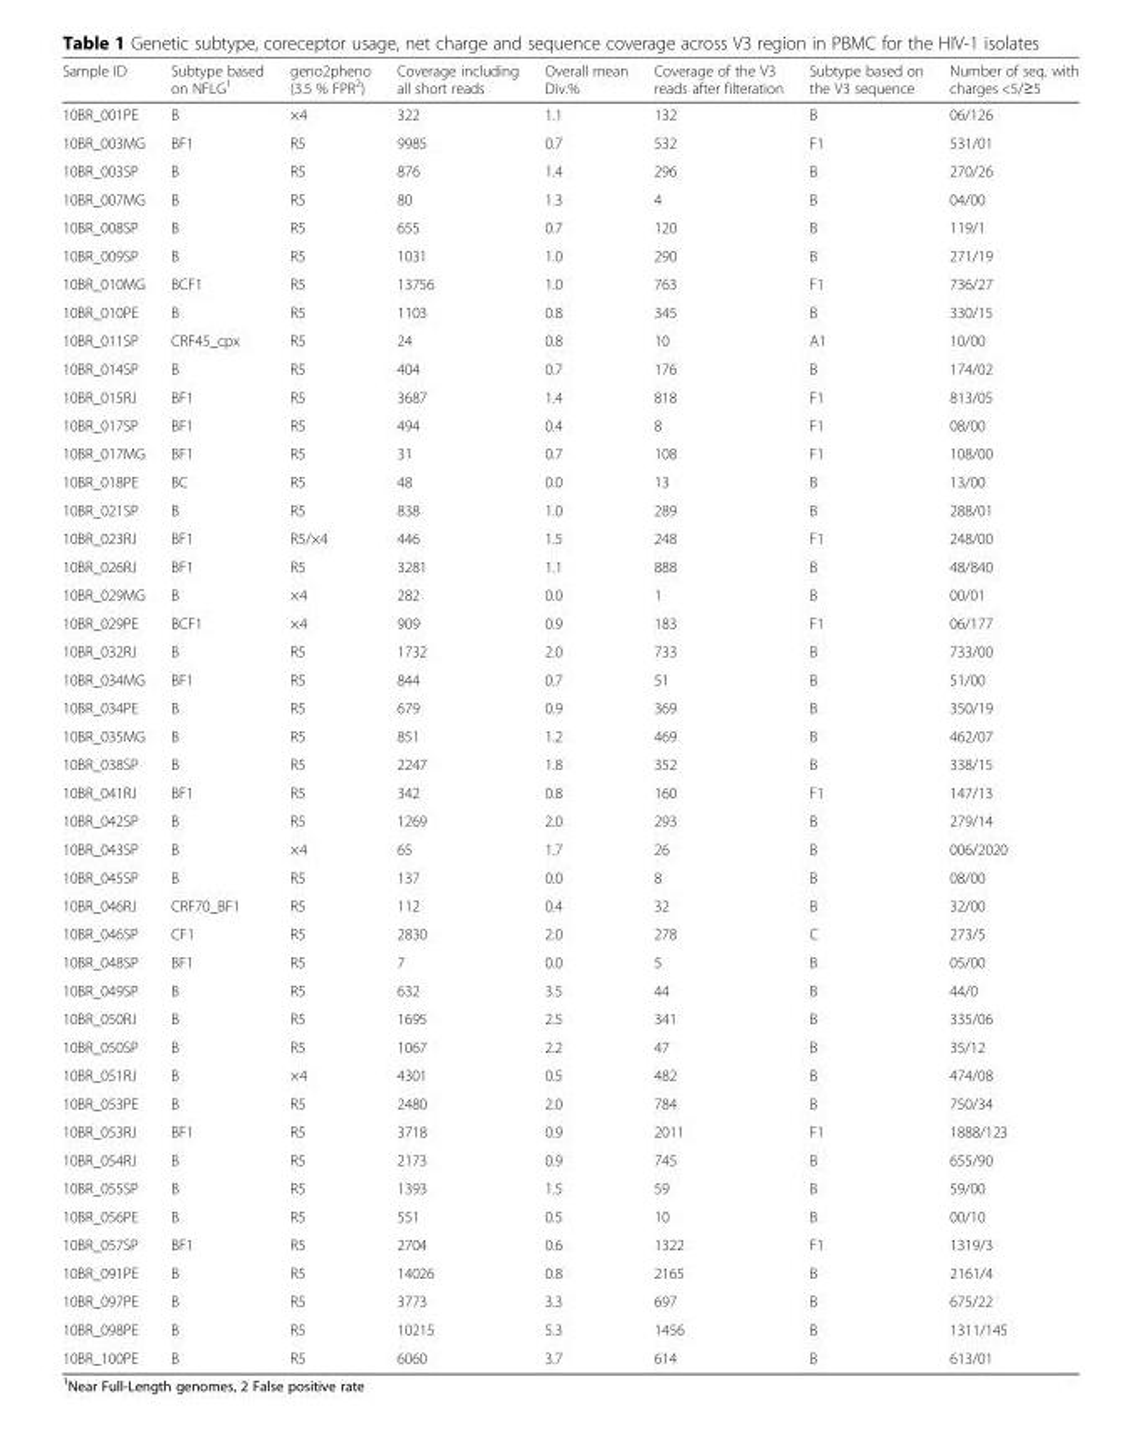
<table><thead><tr><td>Sample ID</td><td>Subtype based on NFLG<sup>1</sup></td><td>geno2pheno (3.5 % FPR<sup>2</sup>)</td><td>Coverage including all short reads</td><td>Overall mean Div.%</td><td>Coverage of the V3 reads after filteration</td><td>Subtype based on the V3 sequence</td><td>Number of seq. with charges &lt;5/≥5</td></tr></thead><tbody><tr><td>10BR_001PE</td><td>B</td><td>×4</td><td>322</td><td>1.1</td><td>132</td><td>B</td><td>06/126</td></tr><tr><td>10BR_003MG</td><td>BF1</td><td>R5</td><td>9985</td><td>0.7</td><td>532</td><td>F1</td><td>531/01</td></tr><tr><td>10BR_003SP</td><td>B</td><td>R5</td><td>876</td><td>1.4</td><td>296</td><td>B</td><td>270/26</td></tr><tr><td>10BR_007MG</td><td>B</td><td>R5</td><td>80</td><td>1.3</td><td>4</td><td>B</td><td>04/00</td></tr><tr><td>10BR_008SP</td><td>B</td><td>R5</td><td>655</td><td>0.7</td><td>120</td><td>B</td><td>119/1</td></tr><tr><td>10BR_009SP</td><td>B</td><td>R5</td><td>1031</td><td>1.0</td><td>290</td><td>B</td><td>271/19</td></tr><tr><td>10BR_010MG</td><td>BCF1</td><td>R5</td><td>13756</td><td>1.0</td><td>763</td><td>F1</td><td>736/27</td></tr><tr><td>10BR_010PE</td><td>B</td><td>R5</td><td>1103</td><td>0.8</td><td>345</td><td>B</td><td>330/15</td></tr><tr><td>10BR_011SP</td><td>CRF45_cpx</td><td>R5</td><td>24</td><td>0.8</td><td>10</td><td>A1</td><td>10/00</td></tr><tr><td>10BR_014SP</td><td>B</td><td>R5</td><td>404</td><td>0.7</td><td>176</td><td>B</td><td>174/02</td></tr><tr><td>10BR_015RJ</td><td>BF1</td><td>R5</td><td>3687</td><td>1.4</td><td>818</td><td>F1</td><td>813/05</td></tr><tr><td>10BR_017SP</td><td>BF1</td><td>R5</td><td>494</td><td>0.4</td><td>8</td><td>F1</td><td>08/00</td></tr><tr><td>10BR_017MG</td><td>BF1</td><td>R5</td><td>31</td><td>0.7</td><td>108</td><td>F1</td><td>108/00</td></tr><tr><td>10BR_018PE</td><td>BC</td><td>R5</td><td>48</td><td>0.0</td><td>13</td><td>B</td><td>13/00</td></tr><tr><td>10BR_021SP</td><td>B</td><td>R5</td><td>838</td><td>1.0</td><td>289</td><td>B</td><td>288/01</td></tr><tr><td>10BR_023RJ</td><td>BF1</td><td>R5/×4</td><td>446</td><td>1.5</td><td>248</td><td>F1</td><td>248/00</td></tr><tr><td>10BR_026RJ</td><td>BF1</td><td>R5</td><td>3281</td><td>1.1</td><td>888</td><td>B</td><td>48/840</td></tr><tr><td>10BR_029MG</td><td>B</td><td>×4</td><td>282</td><td>0.0</td><td>1</td><td>B</td><td>00/01</td></tr><tr><td>10BR_029PE</td><td>BCF1</td><td>×4</td><td>909</td><td>0.9</td><td>183</td><td>F1</td><td>06/177</td></tr><tr><td>10BR_032RJ</td><td>B</td><td>R5</td><td>1732</td><td>2.0</td><td>733</td><td>B</td><td>733/00</td></tr><tr><td>10BR_034MG</td><td>BF1</td><td>R5</td><td>844</td><td>0.7</td><td>51</td><td>B</td><td>51/00</td></tr><tr><td>10BR_034PE</td><td>B</td><td>R5</td><td>679</td><td>0.9</td><td>369</td><td>B</td><td>350/19</td></tr><tr><td>10BR_035MG</td><td>B</td><td>R5</td><td>851</td><td>1.2</td><td>469</td><td>B</td><td>462/07</td></tr><tr><td>10BR_038SP</td><td>B</td><td>R5</td><td>2247</td><td>1.8</td><td>352</td><td>B</td><td>338/15</td></tr><tr><td>10BR_041RJ</td><td>BF1</td><td>R5</td><td>342</td><td>0.8</td><td>160</td><td>F1</td><td>147/13</td></tr><tr><td>10BR_042SP</td><td>B</td><td>R5</td><td>1269</td><td>2.0</td><td>293</td><td>B</td><td>279/14</td></tr><tr><td>10BR_043SP</td><td>B</td><td>×4</td><td>65</td><td>1.7</td><td>26</td><td>B</td><td>006/2020</td></tr><tr><td>10BR_045SP</td><td>B</td><td>R5</td><td>137</td><td>0.0</td><td>8</td><td>B</td><td>08/00</td></tr><tr><td>10BR_046RJ</td><td>CRF70_BF1</td><td>R5</td><td>112</td><td>0.4</td><td>32</td><td>B</td><td>32/00</td></tr><tr><td>10BR_046SP</td><td>CF1</td><td>R5</td><td>2830</td><td>2.0</td><td>278</td><td>C</td><td>273/5</td></tr><tr><td>10BR_048SP</td><td>BF1</td><td>R5</td><td>7</td><td>0.0</td><td>5</td><td>B</td><td>05/00</td></tr><tr><td>10BR_049SP</td><td>B</td><td>R5</td><td>632</td><td>3.5</td><td>44</td><td>B</td><td>44/0</td></tr><tr><td>10BR_050RJ</td><td>B</td><td>R5</td><td>1695</td><td>2.5</td><td>341</td><td>B</td><td>335/06</td></tr><tr><td>10BR_050SP</td><td>B</td><td>R5</td><td>1067</td><td>2.2</td><td>47</td><td>B</td><td>35/12</td></tr><tr><td>10BR_051RJ</td><td>B</td><td>×4</td><td>4301</td><td>0.5</td><td>482</td><td>B</td><td>474/08</td></tr><tr><td>10BR_053PE</td><td>B</td><td>R5</td><td>2480</td><td>2.0</td><td>784</td><td>B</td><td>750/34</td></tr><tr><td>10BR_053RJ</td><td>BF1</td><td>R5</td><td>3718</td><td>0.9</td><td>2011</td><td>F1</td><td>1888/123</td></tr><tr><td>10BR_054RJ</td><td>B</td><td>R5</td><td>2173</td><td>0.9</td><td>745</td><td>B</td><td>655/90</td></tr><tr><td>10BR_055SP</td><td>B</td><td>R5</td><td>1393</td><td>1.5</td><td>59</td><td>B</td><td>59/00</td></tr><tr><td>10BR_056PE</td><td>B</td><td>R5</td><td>551</td><td>0.5</td><td>10</td><td>B</td><td>00/10</td></tr><tr><td>10BR_057SP</td><td>BF1</td><td>R5</td><td>2704</td><td>0.6</td><td>1322</td><td>F1</td><td>1319/3</td></tr><tr><td>10BR_091PE</td><td>B</td><td>R5</td><td>14026</td><td>0.8</td><td>2165</td><td>B</td><td>2161/4</td></tr><tr><td>10BR_097PE</td><td>B</td><td>R5</td><td>3773</td><td>3.3</td><td>697</td><td>B</td><td>675/22</td></tr><tr><td>10BR_098PE</td><td>B</td><td>R5</td><td>10215</td><td>5.3</td><td>1456</td><td>B</td><td>1311/145</td></tr><tr><td>10BR_100PE</td><td>B</td><td>R5</td><td>6060</td><td>3.7</td><td>614</td><td>B</td><td>613/01</td></tr></tbody></table>